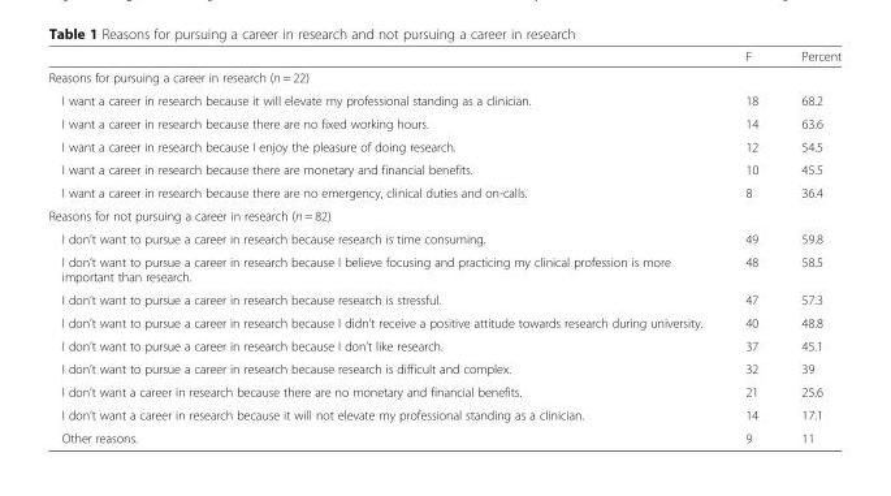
<table><thead><tr><td></td><td>F</td><td>Percent</td></tr></thead><tbody><tr><td colspan="3">Reasons for pursuing a career in research (n = 22)</td></tr><tr><td>I want a career in research because it will elevate my professional standing as a clinician.</td><td>18</td><td>68.2</td></tr><tr><td>I want a career in research because there are no fixed working hours.</td><td>14</td><td>63.6</td></tr><tr><td>I want a career in research because I enjoy the pleasure of doing research.</td><td>12</td><td>54.5</td></tr><tr><td>I want a career in research because there are monetary and financial benefits.</td><td>10</td><td>45.5</td></tr><tr><td>I want a career in research because there are no emergency, clinical duties and on-calls.</td><td>8</td><td>36.4</td></tr><tr><td colspan="3">Reasons for not pursuing a career in research (n = 82)</td></tr><tr><td>I don’t want to pursue a career in research because research is time consuming.</td><td>49</td><td>59.8</td></tr><tr><td>I don’t want to pursue a career in research because I believe focusing and practicing my clinical profession is more important than research.</td><td>48</td><td>58.5</td></tr><tr><td>I don’t want to pursue a career in research because research is stressful.</td><td>47</td><td>57.3</td></tr><tr><td>I don’t want to pursue a career in research because I didn’t receive a positive attitude towards research during university.</td><td>40</td><td>48.8</td></tr><tr><td>I don’t want to pursue a career in research because I don’t like research.</td><td>37</td><td>45.1</td></tr><tr><td>I don’t want to pursue a career in research because research is difficult and complex.</td><td>32</td><td>39</td></tr><tr><td>I don’t want a career in research because there are no monetary and financial benefits.</td><td>21</td><td>25.6</td></tr><tr><td>I don’t want a career in research because it will not elevate my professional standing as a clinician.</td><td>14</td><td>17.1</td></tr><tr><td>Other reasons.</td><td>9</td><td>11</td></tr></tbody></table>